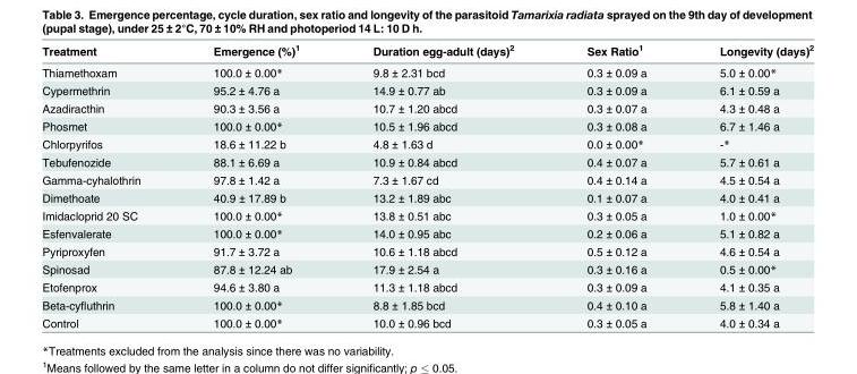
<table><thead><tr><td>Treatment</td><td>Emergence (%)<sup>1</sup></td><td>Duration egg-adult (days)<sup>2</sup></td><td>Sex Ratio<sup>1</sup></td><td>Longevity (days)<sup>2</sup></td></tr></thead><tbody><tr><td>Thiamethoxam</td><td>100.0 ± 0.00*</td><td>9.8 ± 2.31 bcd</td><td>0.3 ± 0.09 a</td><td>5.0 ± 0.00*</td></tr><tr><td>Cypermethrin</td><td>95.2 ± 4.76 a</td><td>14.9 ± 0.77 ab</td><td>0.3 ± 0.09 a</td><td>6.1 ± 0.59 a</td></tr><tr><td>Azadiracthin</td><td>90.3 ± 3.56 a</td><td>10.7 ± 1.20 abcd</td><td>0.3 ± 0.07 a</td><td>4.3 ± 0.48 a</td></tr><tr><td>Phosmet</td><td>100.0 ± 0.00*</td><td>10.5 ± 1.96 abcd</td><td>0.3 ± 0.08 a</td><td>6.7 ± 1.46 a</td></tr><tr><td>Chlorpyrifos</td><td>18.6 ± 11.22 b</td><td>4.8 ± 1.63 d</td><td>0.0 ± 0.00*</td><td>-*</td></tr><tr><td>Tebufenozide</td><td>88.1 ± 6.69 a</td><td>10.9 ± 0.84 abcd</td><td>0.4 ± 0.07 a</td><td>5.7 ± 0.61 a</td></tr><tr><td>Gamma-cyhalothrin</td><td>97.8 ± 1.42 a</td><td>7.3 ± 1.67 cd</td><td>0.4 ± 0.14 a</td><td>4.5 ± 0.54 a</td></tr><tr><td>Dimethoate</td><td>40.9 ± 17.89 b</td><td>13.2 ± 1.89 abc</td><td>0.1 ± 0.07 a</td><td>4.0 ± 0.41 a</td></tr><tr><td>Imidacloprid 20 SC</td><td>100.0 ± 0.00*</td><td>13.8 ± 0.51 abc</td><td>0.3 ± 0.05 a</td><td>1.0 ± 0.00*</td></tr><tr><td>Esfenvalerate</td><td>100.0 ± 0.00*</td><td>14.0 ± 0.95 abc</td><td>0.2 ± 0.06 a</td><td>5.1 ± 0.82 a</td></tr><tr><td>Pyriproxyfen</td><td>91.7 ± 3.72 a</td><td>10.6 ± 1.18 abcd</td><td>0.5 ± 0.12 a</td><td>4.6 ± 0.54 a</td></tr><tr><td>Spinosad</td><td>87.8 ± 12.24 ab</td><td>17.9 ± 2.54 a</td><td>0.3 ± 0.16 a</td><td>0.5 ± 0.00*</td></tr><tr><td>Etofenprox</td><td>94.6 ± 3.80 a</td><td>11.3 ± 1.18 abcd</td><td>0.3 ± 0.09 a</td><td>4.1 ± 0.35 a</td></tr><tr><td>Beta-cyfluthrin</td><td>100.0 ± 0.00*</td><td>8.8 ± 1.85 bcd</td><td>0.4 ± 0.10 a</td><td>5.8 ± 1.40 a</td></tr><tr><td>Control</td><td>100.0 ± 0.00*</td><td>10.0 ± 0.96 bcd</td><td>0.3 ± 0.05 a</td><td>4.0 ± 0.34 a</td></tr></tbody></table>